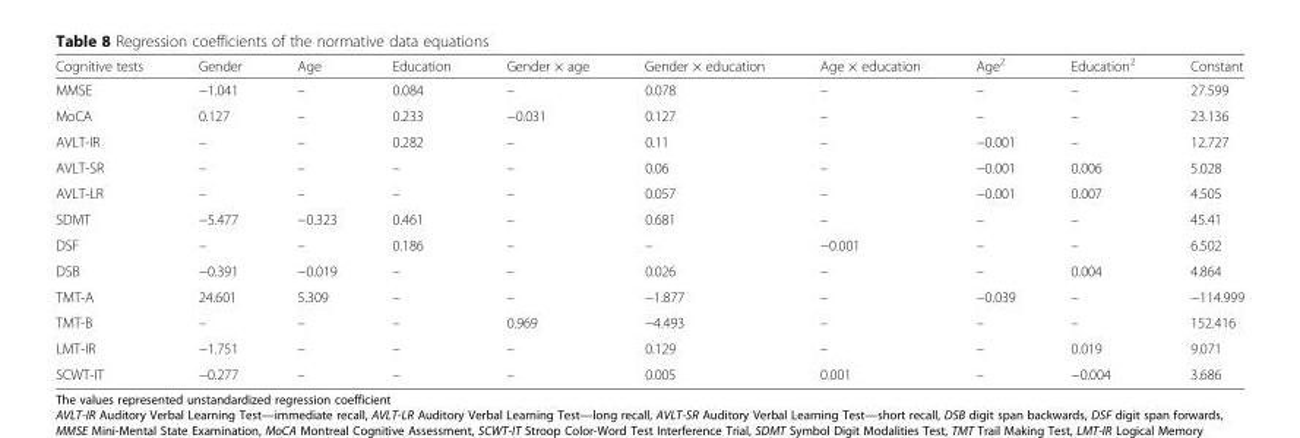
<table><thead><tr><td>Cognitive tests</td><td>Gender</td><td>Age</td><td>Education</td><td>Gender × age</td><td>Gender × education</td><td>Age × education</td><td>Age<sup>2</sup></td><td>Education<sup>2</sup></td><td>Constant</td></tr></thead><tbody><tr><td>MMSE</td><td>−1.041</td><td>–</td><td>0.084</td><td>–</td><td>0.078</td><td>–</td><td>–</td><td>–</td><td>27.599</td></tr><tr><td>MoCA</td><td>0.127</td><td>–</td><td>0.233</td><td>−0.031</td><td>0.127</td><td>–</td><td>–</td><td>–</td><td>23.136</td></tr><tr><td>AVLT-IR</td><td>–</td><td>–</td><td>0.282</td><td>–</td><td>0.11</td><td>–</td><td>−0.001</td><td>–</td><td>12.727</td></tr><tr><td>AVLT-SR</td><td>–</td><td>–</td><td>–</td><td>–</td><td>0.06</td><td>–</td><td>−0.001</td><td>0.006</td><td>5.028</td></tr><tr><td>AVLT-LR</td><td>–</td><td>–</td><td>–</td><td>–</td><td>0.057</td><td>–</td><td>−0.001</td><td>0.007</td><td>4.505</td></tr><tr><td>SDMT</td><td>−5.477</td><td>−0.323</td><td>0.461</td><td>–</td><td>0.681</td><td>–</td><td>–</td><td>–</td><td>45.41</td></tr><tr><td>DSF</td><td>–</td><td>–</td><td>0.186</td><td>–</td><td>–</td><td>−0.001</td><td>–</td><td>–</td><td>6.502</td></tr><tr><td>DSB</td><td>−0.391</td><td>−0.019</td><td>–</td><td>–</td><td>0.026</td><td>–</td><td>–</td><td>0.004</td><td>4.864</td></tr><tr><td>TMT-A</td><td>24.601</td><td>5.309</td><td>–</td><td>–</td><td>−1.877</td><td>–</td><td>−0.039</td><td>–</td><td>−114.999</td></tr><tr><td>TMT-B</td><td>–</td><td>–</td><td>–</td><td>0.969</td><td>−4.493</td><td>–</td><td>–</td><td>–</td><td>152.416</td></tr><tr><td>LMT-IR</td><td>−1.751</td><td>–</td><td>–</td><td>–</td><td>0.129</td><td>–</td><td>–</td><td>0.019</td><td>9.071</td></tr><tr><td>SCWT-IT</td><td>−0.277</td><td>–</td><td>–</td><td>–</td><td>0.005</td><td>0.001</td><td>–</td><td>−0.004</td><td>3.686</td></tr></tbody></table>